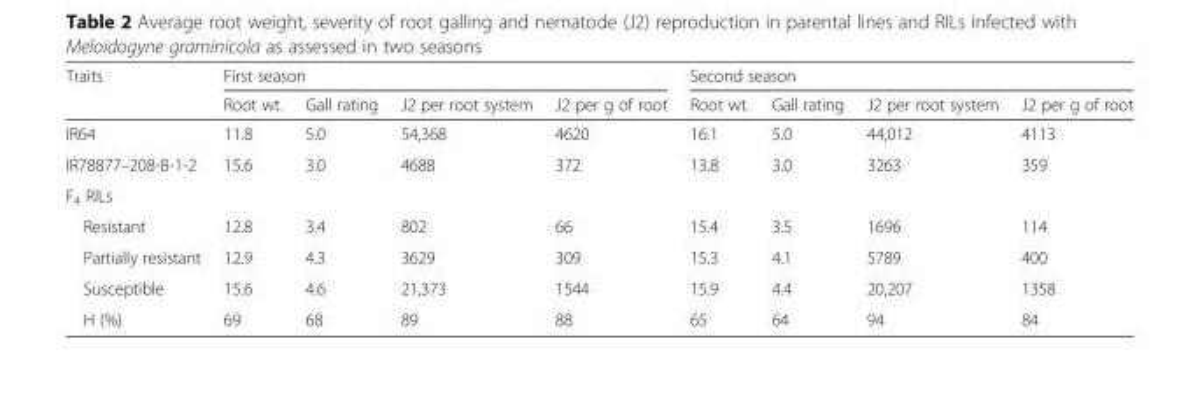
<table><thead><tr><td rowspan="2">Traits</td><td colspan="4">First season</td><td colspan="4">Second season</td></tr><tr><td>Root wt.</td><td>Gall rating</td><td>J2 per root system</td><td>J2 per g of root</td><td>Root wt.</td><td>Gall rating</td><td>J2 per root system</td><td>J2 per g of root</td></tr></thead><tbody><tr><td>IR64</td><td>11.8</td><td>5.0</td><td>54,368</td><td>4620</td><td>16.1</td><td>5.0</td><td>44,012</td><td>4113</td></tr><tr><td>IR78877–208-B-1-2</td><td>15.6</td><td>3.0</td><td>4688</td><td>372</td><td>13.8</td><td>3.0</td><td>3263</td><td>359</td></tr><tr><td colspan="9">F<sub>4</sub> RILs</td></tr><tr><td>Resistant</td><td>12.8</td><td>3.4</td><td>802</td><td>66</td><td>15.4</td><td>3.5</td><td>1696</td><td>114</td></tr><tr><td>Partially resistant</td><td>12.9</td><td>4.3</td><td>3629</td><td>309</td><td>15.3</td><td>4.1</td><td>5789</td><td>400</td></tr><tr><td>Susceptible</td><td>15.6</td><td>4.6</td><td>21,373</td><td>1544</td><td>15.9</td><td>4.4</td><td>20,207</td><td>1358</td></tr><tr><td>H (%)</td><td>69</td><td>68</td><td>89</td><td>88</td><td>65</td><td>64</td><td>94</td><td>84</td></tr></tbody></table>